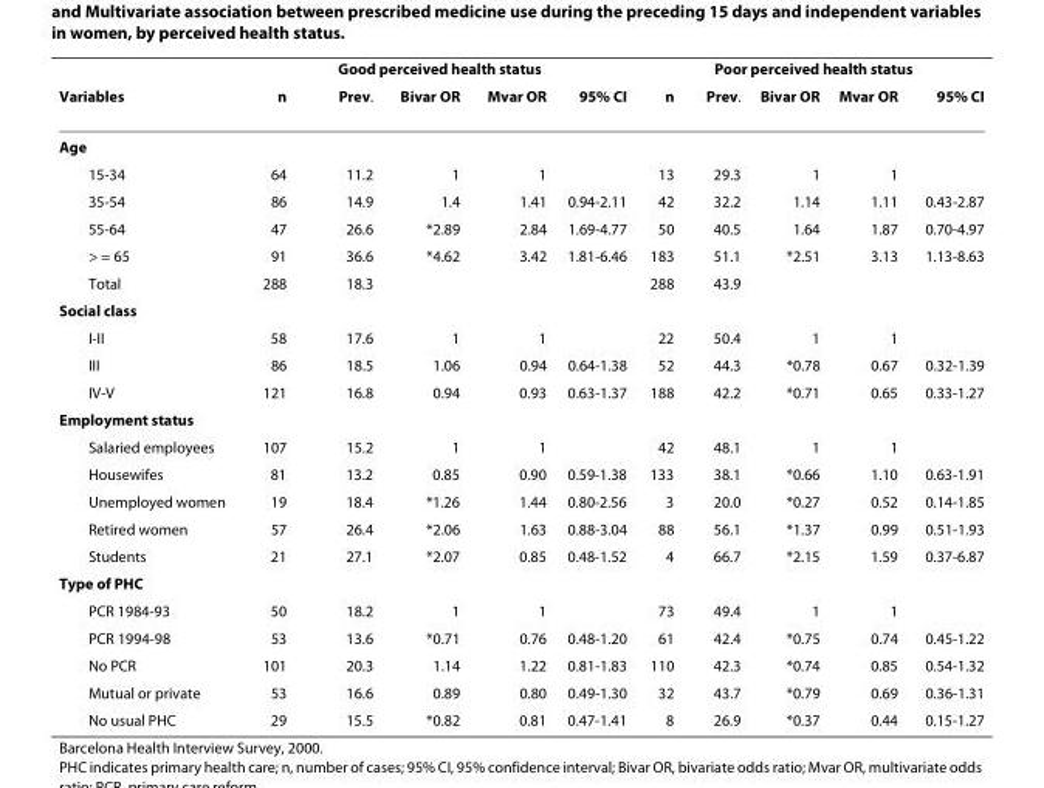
<table><thead><tr><td rowspan="2">Variables</td><td colspan="5">Good perceived health status</td><td colspan="5">Poor perceived health status</td></tr><tr><td>n</td><td>Prev.</td><td>Bivar OR</td><td>Mvar OR</td><td>95% CI</td><td>n</td><td>Prev.</td><td>Bivar OR</td><td>Mvar OR</td><td>95% CI</td></tr></thead><tbody><tr><td colspan="11">Age</td></tr><tr><td>15-34</td><td>64</td><td>11.2</td><td>1</td><td>1</td><td></td><td>13</td><td>29.3</td><td>1</td><td>1</td><td></td></tr><tr><td>35-54</td><td>86</td><td>14.9</td><td>1.4</td><td>1.41</td><td>0.94-2.11</td><td>42</td><td>32.2</td><td>1.14</td><td>1.11</td><td>0.43-2.87</td></tr><tr><td>55-64</td><td>47</td><td>26.6</td><td>*2.89</td><td>2.84</td><td>1.69-4.77</td><td>50</td><td>40.5</td><td>1.64</td><td>1.87</td><td>0.70-4.97</td></tr><tr><td>&gt; = 65</td><td>91</td><td>36.6</td><td>*4.62</td><td>3.42</td><td>1.81-6.46</td><td>183</td><td>51.1</td><td>*2.51</td><td>3.13</td><td>1.13-8.63</td></tr><tr><td>Total</td><td>288</td><td>18.3</td><td></td><td></td><td></td><td>288</td><td>43.9</td><td></td><td></td><td></td></tr><tr><td colspan="11">Social class</td></tr><tr><td>I-II</td><td>58</td><td>17.6</td><td>1</td><td>1</td><td></td><td>22</td><td>50.4</td><td>1</td><td>1</td><td></td></tr><tr><td>III</td><td>86</td><td>18.5</td><td>1.06</td><td>0.94</td><td>0.64-1.38</td><td>52</td><td>44.3</td><td>*0.78</td><td>0.67</td><td>0.32-1.39</td></tr><tr><td>IV-V</td><td>121</td><td>16.8</td><td>0.94</td><td>0.93</td><td>0.63-1.37</td><td>188</td><td>42.2</td><td>*0.71</td><td>0.65</td><td>0.33-1.27</td></tr><tr><td colspan="11">Employment status</td></tr><tr><td>Salaried employees</td><td>107</td><td>15.2</td><td>1</td><td>1</td><td></td><td>42</td><td>48.1</td><td>1</td><td>1</td><td></td></tr><tr><td>Housewifes</td><td>81</td><td>13.2</td><td>0.85</td><td>0.90</td><td>0.59-1.38</td><td>133</td><td>38.1</td><td>*0.66</td><td>1.10</td><td>0.63-1.91</td></tr><tr><td>Unemployed women</td><td>19</td><td>18.4</td><td>*1.26</td><td>1.44</td><td>0.80-2.56</td><td>3</td><td>20.0</td><td>*0.27</td><td>0.52</td><td>0.14-1.85</td></tr><tr><td>Retired women</td><td>57</td><td>26.4</td><td>*2.06</td><td>1.63</td><td>0.88-3.04</td><td>88</td><td>56.1</td><td>*1.37</td><td>0.99</td><td>0.51-1.93</td></tr><tr><td>Students</td><td>21</td><td>27.1</td><td>*2.07</td><td>0.85</td><td>0.48-1.52</td><td>4</td><td>66.7</td><td>*2.15</td><td>1.59</td><td>0.37-6.87</td></tr><tr><td colspan="11">Type of PHC</td></tr><tr><td>PCR 1984-93</td><td>50</td><td>18.2</td><td>1</td><td>1</td><td></td><td>73</td><td>49.4</td><td>1</td><td>1</td><td></td></tr><tr><td>PCR 1994-98</td><td>53</td><td>13.6</td><td>*0.71</td><td>0.76</td><td>0.48-1.20</td><td>61</td><td>42.4</td><td>*0.75</td><td>0.74</td><td>0.45-1.22</td></tr><tr><td>No PCR</td><td>101</td><td>20.3</td><td>1.14</td><td>1.22</td><td>0.81-1.83</td><td>110</td><td>42.3</td><td>*0.74</td><td>0.85</td><td>0.54-1.32</td></tr><tr><td>Mutual or private</td><td>53</td><td>16.6</td><td>0.89</td><td>0.80</td><td>0.49-1.30</td><td>32</td><td>43.7</td><td>*0.79</td><td>0.69</td><td>0.36-1.31</td></tr><tr><td>No usual PHC</td><td>29</td><td>15.5</td><td>*0.82</td><td>0.81</td><td>0.47-1.41</td><td>8</td><td>26.9</td><td>*0.37</td><td>0.44</td><td>0.15-1.27</td></tr></tbody></table>